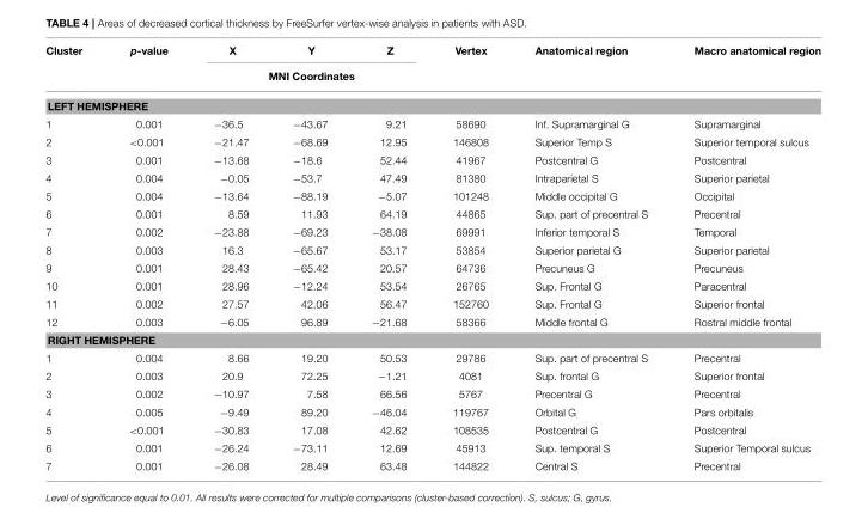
<table><thead><tr><td rowspan="2">Cluster</td><td rowspan="2">p-value</td><td>X</td><td>Y</td><td>Z</td><td rowspan="2">Vertex</td><td rowspan="2">Anatomical region</td><td rowspan="2">Macro anatomical region</td></tr><tr><td colspan="3">MNI Coordinates</td></tr></thead><tbody><tr><td colspan="8">LEFT HEMISPHERE</td></tr><tr><td>1</td><td>0.001</td><td>−36.5</td><td>−43.67</td><td>9.21</td><td>58690</td><td>Inf. Supramarginal G</td><td>Supramarginal</td></tr><tr><td>2</td><td>&lt;0.001</td><td>−21.47</td><td>−68.69</td><td>12.95</td><td>146808</td><td>Superior Temp S</td><td>Superior temporal sulcus</td></tr><tr><td>3</td><td>0.001</td><td>−13.68</td><td>−18.6</td><td>52.44</td><td>41967</td><td>Postcentral G</td><td>Postcentral</td></tr><tr><td>4</td><td>0.004</td><td>−0.05</td><td>−53.7</td><td>47.49</td><td>81380</td><td>Intraparietal S</td><td>Superior parietal</td></tr><tr><td>5</td><td>0.004</td><td>−13.64</td><td>−88.19</td><td>−5.07</td><td>101248</td><td>Middle occipital G</td><td>Occipital</td></tr><tr><td>6</td><td>0.001</td><td>8.59</td><td>11.93</td><td>64.19</td><td>44865</td><td>Sup. part of precentral S</td><td>Precentral</td></tr><tr><td>7</td><td>0.002</td><td>−23.88</td><td>−69.23</td><td>−38.08</td><td>69991</td><td>Inferior temporal S</td><td>Temporal</td></tr><tr><td>8</td><td>0.003</td><td>16.3</td><td>−65.67</td><td>53.17</td><td>53854</td><td>Superior parietal G</td><td>Superior parietal</td></tr><tr><td>9</td><td>0.001</td><td>28.43</td><td>−65.42</td><td>20.57</td><td>64736</td><td>Precuneus G</td><td>Precuneus</td></tr><tr><td>10</td><td>0.001</td><td>28.96</td><td>−12.24</td><td>53.54</td><td>26765</td><td>Sup. Frontal G</td><td>Paracentral</td></tr><tr><td>11</td><td>0.002</td><td>27.57</td><td>42.06</td><td>56.47</td><td>152760</td><td>Sup. Frontal G</td><td>Superior frontal</td></tr><tr><td>12</td><td>0.003</td><td>−6.05</td><td>96.89</td><td>−21.68</td><td>58366</td><td>Middle frontal G</td><td>Rostral middle frontal</td></tr><tr><td colspan="8">RIGHT HEMISPHERE</td></tr><tr><td>1</td><td>0.004</td><td>8.66</td><td>19.20</td><td>50.53</td><td>29786</td><td>Sup. part of precentral S</td><td>Precentral</td></tr><tr><td>2</td><td>0.003</td><td>20.9</td><td>72.25</td><td>−1.21</td><td>4081</td><td>Sup. frontal G</td><td>Superior frontal</td></tr><tr><td>3</td><td>0.002</td><td>−10.97</td><td>7.58</td><td>66.56</td><td>5767</td><td>Precentral G</td><td>Precentral</td></tr><tr><td>4</td><td>0.005</td><td>−9.49</td><td>89.20</td><td>−46.04</td><td>119767</td><td>Orbital G</td><td>Pars orbitalis</td></tr><tr><td>5</td><td>&lt;0.001</td><td>−30.83</td><td>17.08</td><td>42.62</td><td>108535</td><td>Postcentral G</td><td>Postcentral</td></tr><tr><td>6</td><td>0.001</td><td>−26.24</td><td>−73.11</td><td>12.69</td><td>45913</td><td>Sup. temporal S</td><td>Superior Temporal sulcus</td></tr><tr><td>7</td><td>0.001</td><td>−26.08</td><td>28.49</td><td>63.48</td><td>144822</td><td>Central S</td><td>Precentral</td></tr></tbody></table>